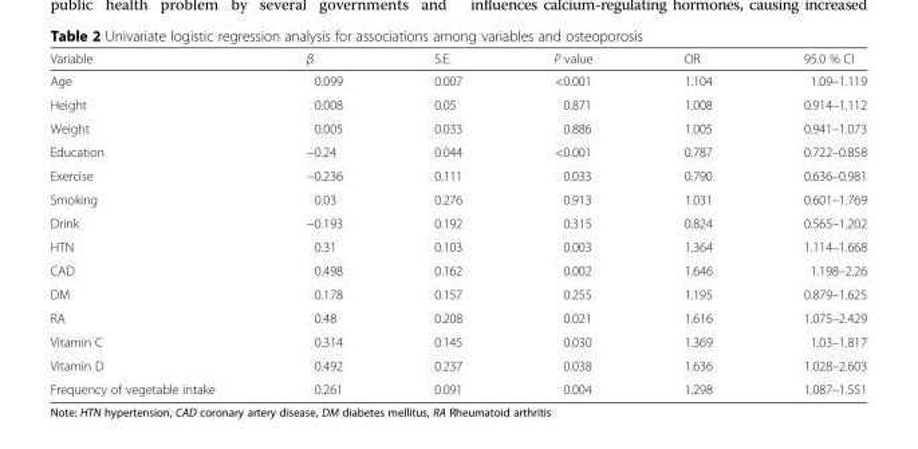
<table><thead><tr><td>Variable</td><td>β</td><td>S.E.</td><td>P value</td><td>OR</td><td>95.0 % CI</td></tr></thead><tbody><tr><td>Age</td><td>0.099</td><td>0.007</td><td>&lt;0.001</td><td>1.104</td><td>1.09–1.119</td></tr><tr><td>Height</td><td>0.008</td><td>0.05</td><td>0.871</td><td>1.008</td><td>0.914–1.112</td></tr><tr><td>Weight</td><td>0.005</td><td>0.033</td><td>0.886</td><td>1.005</td><td>0.941–1.073</td></tr><tr><td>Education</td><td>−0.24</td><td>0.044</td><td>&lt;0.001</td><td>0.787</td><td>0.722–0.858</td></tr><tr><td>Exercise</td><td>−0.236</td><td>0.111</td><td>0.033</td><td>0.790</td><td>0.636–0.981</td></tr><tr><td>Smoking</td><td>0.03</td><td>0.276</td><td>0.913</td><td>1.031</td><td>0.601–1.769</td></tr><tr><td>Drink</td><td>−0.193</td><td>0.192</td><td>0.315</td><td>0.824</td><td>0.565–1.202</td></tr><tr><td>HTN</td><td>0.31</td><td>0.103</td><td>0.003</td><td>1.364</td><td>1.114–1.668</td></tr><tr><td>CAD</td><td>0.498</td><td>0.162</td><td>0.002</td><td>1.646</td><td>1.198–2.26</td></tr><tr><td>DM</td><td>0.178</td><td>0.157</td><td>0.255</td><td>1.195</td><td>0.879–1.625</td></tr><tr><td>RA</td><td>0.48</td><td>0.208</td><td>0.021</td><td>1.616</td><td>1.075–2.429</td></tr><tr><td>Vitamin C</td><td>0.314</td><td>0.145</td><td>0.030</td><td>1.369</td><td>1.03–1.817</td></tr><tr><td>Vitamin D</td><td>0.492</td><td>0.237</td><td>0.038</td><td>1.636</td><td>1.028–2.603</td></tr><tr><td>Frequency of vegetable intake</td><td>0.261</td><td>0.091</td><td>0.004</td><td>1.298</td><td>1.087–1.551</td></tr></tbody></table>